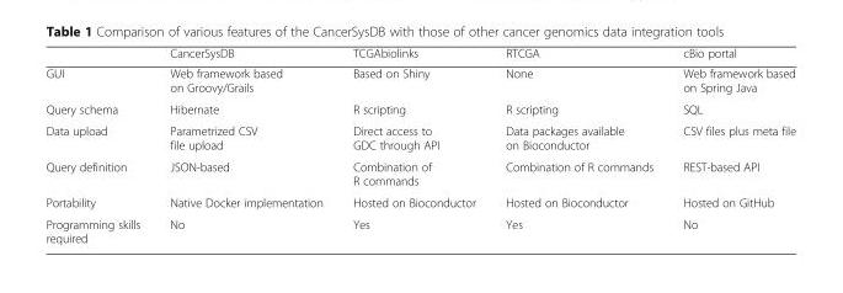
<table><thead><tr><td></td><td>CancerSysDB</td><td>TCGAbiolinks</td><td>RTCGA</td><td>cBio portal</td></tr></thead><tbody><tr><td>GUI</td><td>Web framework based on Groovy/Grails</td><td>Based on Shiny</td><td>None</td><td>Web framework based on Spring Java</td></tr><tr><td>Query schema</td><td>Hibernate</td><td>R scripting</td><td>R scripting</td><td>SQL</td></tr><tr><td>Data upload</td><td>Parametrized CSV file upload</td><td>Direct access to GDC through API</td><td>Data packages available on Bioconductor</td><td>CSV files plus meta file</td></tr><tr><td>Query definition</td><td>JSON-based</td><td>Combination of R commands</td><td>Combination of R commands</td><td>REST-based API</td></tr><tr><td>Portability</td><td>Native Docker implementation</td><td>Hosted on Bioconductor</td><td>Hosted on Bioconductor</td><td>Hosted on GitHub</td></tr><tr><td>Programming skills required</td><td>No</td><td>Yes</td><td>Yes</td><td>No</td></tr></tbody></table>